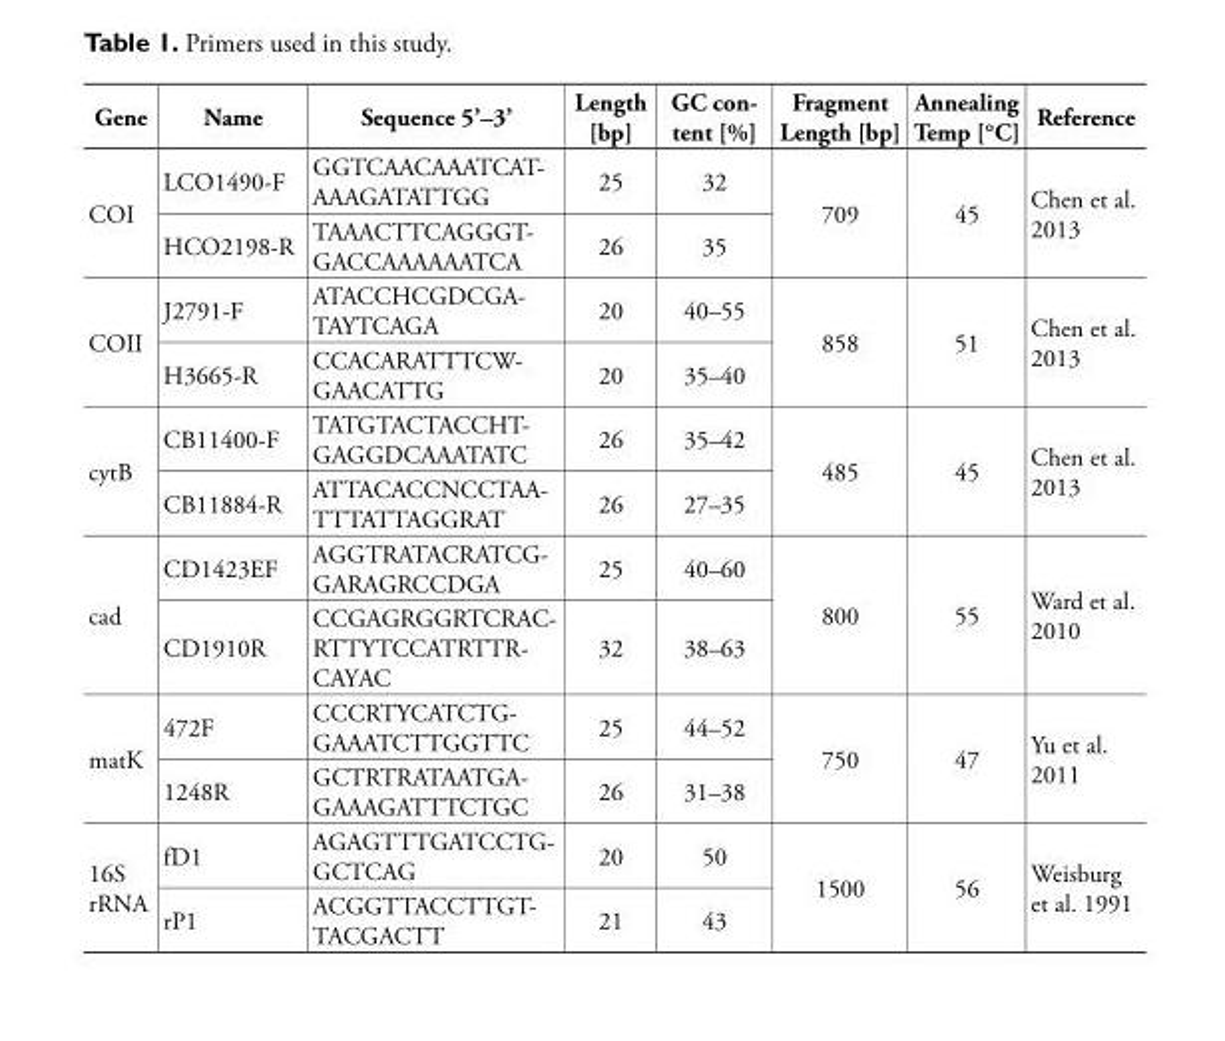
<table><thead><tr><td>Gene</td><td>Name</td><td>Sequence 5’–3’</td><td>Length [bp]</td><td>GC con- tent [%]</td><td>Fragment Length [bp]</td><td>Annealing Temp [°C]</td><td>Reference</td></tr></thead><tbody><tr><td rowspan="2">COI</td><td>LCO1490-F</td><td>GGTCAACAAATCAT- AAAGATATTGG</td><td>25</td><td>32</td><td rowspan="2">709</td><td rowspan="2">45</td><td rowspan="2">Chen et al. 2013</td></tr><tr><td>HCO2198-R</td><td>TAAACTTCAGGGT- GACCAAAAAATCA</td><td>26</td><td>35</td></tr><tr><td rowspan="2">COII</td><td>J2791-F</td><td>ATACCHCGDCGA- TAYTCAGA</td><td>20</td><td>40–55</td><td rowspan="2">858</td><td rowspan="2">51</td><td rowspan="2">Chen et al. 2013</td></tr><tr><td>H3665-R</td><td>CCACARATTTCW- GAACATTG</td><td>20</td><td>35–40</td></tr><tr><td rowspan="2">cytB</td><td>CB11400-F</td><td>TATGTACTACCHT- GAGGDCAAATATC</td><td>26</td><td>35–42</td><td rowspan="2">485</td><td rowspan="2">45</td><td rowspan="2">Chen et al. 2013</td></tr><tr><td>CB11884-R</td><td>ATTACACCNCCTAA- TTTATTAGGRAT</td><td>26</td><td>27–35</td></tr><tr><td rowspan="2">cad</td><td>CD1423EF</td><td>AGGTRATACRATCG- GARAGRCCDGA</td><td>25</td><td>40–60</td><td rowspan="2">800</td><td rowspan="2">55</td><td rowspan="2">Ward et al. 2010</td></tr><tr><td>CD1910R</td><td>CCGAGRGGRTCRAC- RTTYTCCATRTTR- CAYAC</td><td>32</td><td>38–63</td></tr><tr><td rowspan="2">matK</td><td>472F</td><td>CCCRTYCATCTG- GAAATCTTGGTTC</td><td>25</td><td>44–52</td><td rowspan="2">750</td><td rowspan="2">47</td><td rowspan="2">Yu et al. 2011</td></tr><tr><td>1248R</td><td>GCTRTRATAATGA- GAAAGATTTCTGC</td><td>26</td><td>31–38</td></tr><tr><td rowspan="2">16S rRNA</td><td>fD1</td><td>AGAGTTTGATCCTG- GCTCAG</td><td>20</td><td>50</td><td rowspan="2">1500</td><td rowspan="2">56</td><td rowspan="2">Weisburg et al. 1991</td></tr><tr><td>rP1</td><td>ACGGTTACCTTGT- TACGACTT</td><td>21</td><td>43</td></tr></tbody></table>